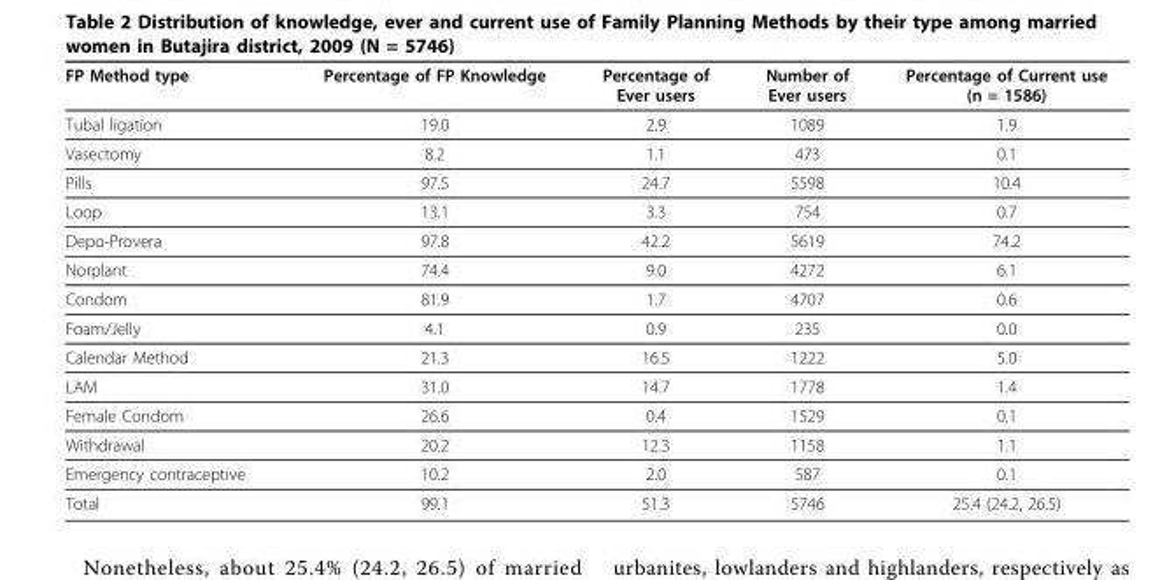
<table><thead><tr><td>FP Method type</td><td>Percentage of FP Knowledge</td><td>Percentage of Ever users</td><td>Number of Ever users</td><td>Percentage of Current use (n = 1586)</td></tr></thead><tbody><tr><td>Tubal ligation</td><td>19.0</td><td>2.9</td><td>1089</td><td>1.9</td></tr><tr><td>Vasectomy</td><td>8.2</td><td>1.1</td><td>473</td><td>0.1</td></tr><tr><td>Pills</td><td>97.5</td><td>24.7</td><td>5598</td><td>10.4</td></tr><tr><td>Loop</td><td>13.1</td><td>3.3</td><td>754</td><td>0.7</td></tr><tr><td>Depo-Provera</td><td>97.8</td><td>42.2</td><td>5619</td><td>74.2</td></tr><tr><td>Norplant</td><td>74.4</td><td>9.0</td><td>4272</td><td>6.1</td></tr><tr><td>Condom</td><td>81.9</td><td>1.7</td><td>4707</td><td>0.6</td></tr><tr><td>Foam/Jelly</td><td>4.1</td><td>0.9</td><td>235</td><td>0.0</td></tr><tr><td>Calendar Method</td><td>21.3</td><td>16.5</td><td>1222</td><td>5.0</td></tr><tr><td>LAM</td><td>31.0</td><td>14.7</td><td>1778</td><td>1.4</td></tr><tr><td>Female Condom</td><td>26.6</td><td>0.4</td><td>1529</td><td>0.1</td></tr><tr><td>Withdrawal</td><td>20.2</td><td>12.3</td><td>1158</td><td>1.1</td></tr><tr><td>Emergency contraceptive</td><td>10.2</td><td>2.0</td><td>587</td><td>0.1</td></tr><tr><td>Total</td><td>99.1</td><td>51.3</td><td>5746</td><td>25.4 (24.2, 26.5)</td></tr></tbody></table>